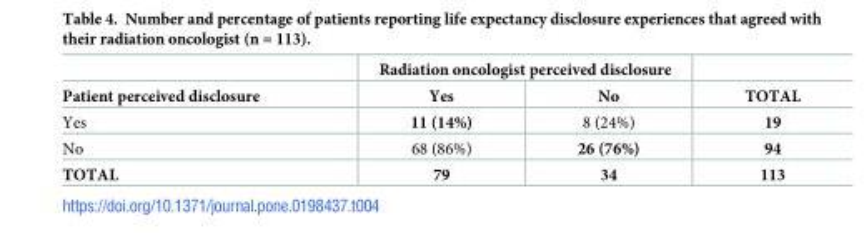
<table><thead><tr><td rowspan="2">Patient perceived disclosure</td><td colspan="2">Radiation oncologist perceived disclosure</td><td rowspan="2">TOTAL</td></tr><tr><td>Yes</td><td>No</td></tr></thead><tbody><tr><td>Yes</td><td>11 (14%)</td><td>8 (24%)</td><td>19</td></tr><tr><td>No</td><td>68 (86%)</td><td>26 (76%)</td><td>94</td></tr><tr><td>TOTAL</td><td>79</td><td>34</td><td>113</td></tr></tbody></table>